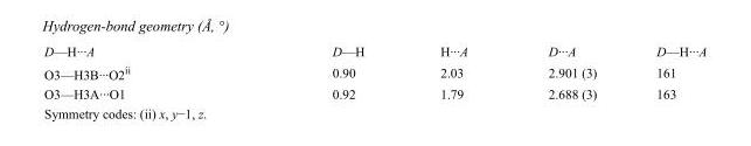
<table><tbody><tr><td>D—H···A</td><td>D—H</td><td>H···A</td><td>D···A</td><td>D—H···A</td></tr><tr><td>O3—H3B···O2<sup>ii</sup></td><td>0.90</td><td>2.03</td><td>2.901 (3)</td><td>161</td></tr><tr><td>O3—H3A···O1</td><td>0.92</td><td>1.79</td><td>2.688 (3)</td><td>163</td></tr></tbody></table>